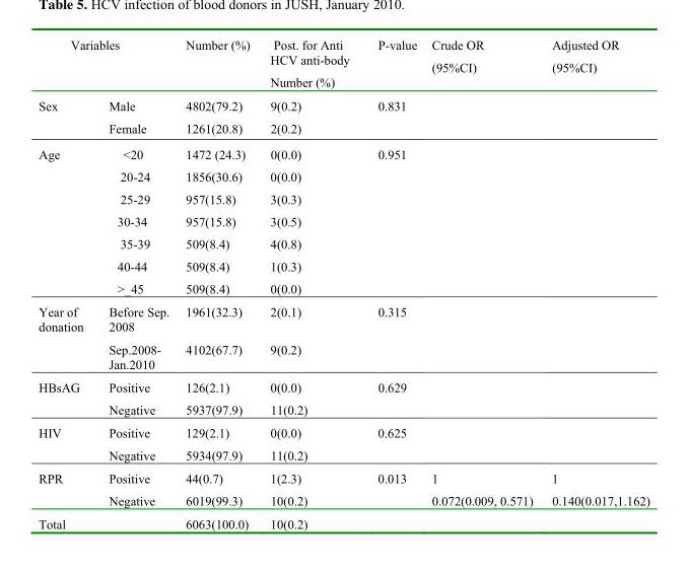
<table><thead><tr><td colspan="2">Variables</td><td rowspan="2">Number (%) 4802(79.2)</td><td rowspan="2">Post. for Anti HCV anti-body Number (%) 9(0.2)</td><td rowspan="2">P-value 0.831</td><td rowspan="2">Crude OR (95%CI)</td><td rowspan="2">Adjusted OR (95%CI)</td></tr><tr><td>Sex</td><td>Male</td></tr></thead><tbody><tr><td></td><td>Female</td><td>1261(20.8)</td><td>2(0.2)</td><td></td><td></td><td></td></tr><tr><td rowspan="7">Age</td><td>&lt;20</td><td>1472 (24.3)</td><td>0(0.0)</td><td>0.951</td><td></td><td></td></tr><tr><td>20-24</td><td>1856(30.6)</td><td>0(0.0)</td><td></td><td></td><td></td></tr><tr><td>25-29</td><td>957(15.8)</td><td>3(0.3)</td><td></td><td></td><td></td></tr><tr><td>30-34</td><td>957(15.8)</td><td>3(0.5)</td><td></td><td></td><td></td></tr><tr><td>35-39</td><td>509(8.4)</td><td>4(0.8)</td><td></td><td></td><td></td></tr><tr><td>40-44</td><td>509(8.4)</td><td>1(0.3)</td><td></td><td></td><td></td></tr><tr><td>&gt;_45</td><td>509(8.4)</td><td>0(0.0)</td><td></td><td></td><td></td></tr><tr><td rowspan="2">Year of donation</td><td>Before Sep. 2008</td><td>1961(32.3)</td><td>2(0.1)</td><td>0.315</td><td></td><td></td></tr><tr><td>Sep.2008- Jan.2010</td><td>4102(67.7)</td><td>9(0.2)</td><td></td><td></td><td></td></tr><tr><td rowspan="2">HBsAG</td><td>Positive</td><td>126(2.1)</td><td>0(0.0)</td><td>0.629</td><td></td><td></td></tr><tr><td>Negative</td><td>5937(97.9)</td><td>11(0.2)</td><td></td><td></td><td></td></tr><tr><td rowspan="2">HIV</td><td>Positive</td><td>129(2.1)</td><td>0(0.0)</td><td>0.625</td><td></td><td></td></tr><tr><td>Negative</td><td>5934(97.9)</td><td>11(0.2)</td><td></td><td></td><td></td></tr><tr><td rowspan="2">RPR</td><td>Positive</td><td>44(0.7)</td><td>1(2.3)</td><td>0.013</td><td>1</td><td>1</td></tr><tr><td>Negative</td><td>6019(99.3)</td><td>10(0.2)</td><td></td><td>0.072(0.009, 0.571)</td><td>0.140(0.017,1.162)</td></tr><tr><td>Total</td><td></td><td>6063(100.0)</td><td>10(0.2)</td><td></td><td></td><td></td></tr></tbody></table>